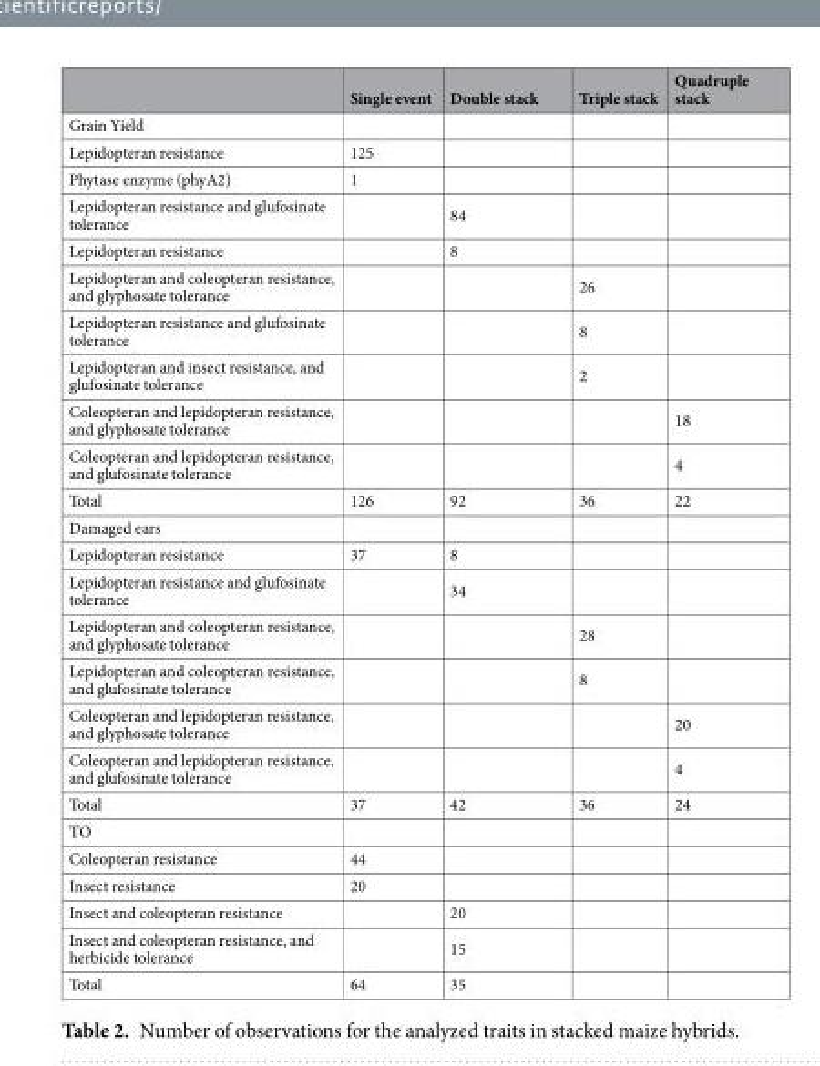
<table><thead><tr><td></td><td>Single event</td><td>Double stack</td><td>Triple stack</td><td>Quadruple stack</td></tr></thead><tbody><tr><td colspan="5">Grain Yield</td></tr><tr><td>Lepidopteran resistance</td><td>125</td><td></td><td></td><td></td></tr><tr><td>Phytase enzyme (phyA2)</td><td>1</td><td></td><td></td><td></td></tr><tr><td>Lepidopteran resistance and glufosinate tolerance</td><td></td><td>84</td><td></td><td></td></tr><tr><td>Lepidopteran resistance</td><td></td><td>8</td><td></td><td></td></tr><tr><td>Lepidopteran and coleopteran resistance, and glyphosate tolerance</td><td></td><td></td><td>26</td><td></td></tr><tr><td>Lepidopteran resistance and glufosinate tolerance</td><td></td><td></td><td>8</td><td></td></tr><tr><td>Lepidopteran and insect resistance, and glufosinate tolerance</td><td></td><td></td><td>2</td><td></td></tr><tr><td>Coleopteran and lepidopteran resistance, and glyphosate tolerance</td><td></td><td></td><td></td><td>18</td></tr><tr><td>Coleopteran and lepidopteran resistance, and glufosinate tolerance</td><td></td><td></td><td></td><td>4</td></tr><tr><td>Total</td><td>126</td><td>92</td><td>36</td><td>22</td></tr><tr><td colspan="5">Damaged ears</td></tr><tr><td>Lepidopteran resistance</td><td>37</td><td>8</td><td></td><td></td></tr><tr><td>Lepidopteran resistance and glufosinate tolerance</td><td></td><td>34</td><td></td><td></td></tr><tr><td>Lepidopteran and coleopteran resistance, and glyphosate tolerance</td><td></td><td></td><td>28</td><td></td></tr><tr><td>Lepidopteran and coleopteran resistance, and glufosinate tolerance</td><td></td><td></td><td>8</td><td></td></tr><tr><td>Coleopteran and lepidopteran resistance, and glyphosate tolerance</td><td></td><td></td><td></td><td>20</td></tr><tr><td>Coleopteran and lepidopteran resistance, and glufosinate tolerance</td><td></td><td></td><td></td><td>4</td></tr><tr><td>Total</td><td>37</td><td>42</td><td>36</td><td>24</td></tr><tr><td colspan="5">TO</td></tr><tr><td>Coleopteran resistance</td><td>44</td><td></td><td></td><td></td></tr><tr><td>Insect resistance</td><td>20</td><td></td><td></td><td></td></tr><tr><td>Insect and coleopteran resistance</td><td></td><td>20</td><td></td><td></td></tr><tr><td>Insect and coleopteran resistance, and herbicide tolerance</td><td></td><td>15</td><td></td><td></td></tr><tr><td>Total</td><td>64</td><td>35</td><td></td><td></td></tr></tbody></table>